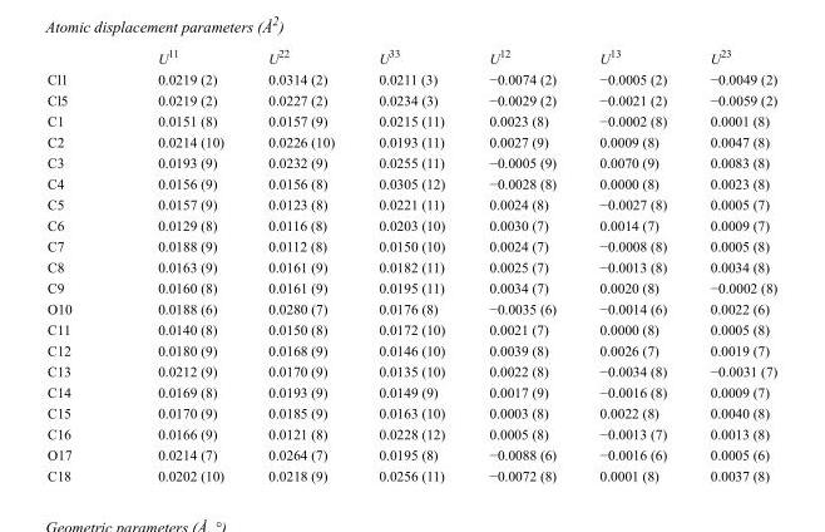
<table><thead><tr><td></td><td>U<sup>11</sup></td><td>U<sup>22</sup></td><td>U<sup>33</sup></td><td>U<sup>12</sup></td><td>U<sup>13</sup></td><td>U<sup>23</sup></td></tr></thead><tbody><tr><td>Cl1</td><td>0.0219 (2)</td><td>0.0314 (2)</td><td>0.0211 (3)</td><td>−0.0074 (2)</td><td>−0.0005 (2)</td><td>−0.0049 (2)</td></tr><tr><td>Cl5</td><td>0.0219 (2)</td><td>0.0227 (2)</td><td>0.0234 (3)</td><td>−0.0029 (2)</td><td>−0.0021 (2)</td><td>−0.0059 (2)</td></tr><tr><td>C1</td><td>0.0151 (8)</td><td>0.0157 (9)</td><td>0.0215 (11)</td><td>0.0023 (8)</td><td>−0.0002 (8)</td><td>0.0001 (8)</td></tr><tr><td>C2</td><td>0.0214 (10)</td><td>0.0226 (10)</td><td>0.0193 (11)</td><td>0.0027 (9)</td><td>0.0009 (8)</td><td>0.0047 (8)</td></tr><tr><td>C3</td><td>0.0193 (9)</td><td>0.0232 (9)</td><td>0.0255 (11)</td><td>−0.0005 (9)</td><td>0.0070 (9)</td><td>0.0083 (8)</td></tr><tr><td>C4</td><td>0.0156 (9)</td><td>0.0156 (8)</td><td>0.0305 (12)</td><td>−0.0028 (8)</td><td>0.0000 (8)</td><td>0.0023 (8)</td></tr><tr><td>C5</td><td>0.0157 (9)</td><td>0.0123 (8)</td><td>0.0221 (11)</td><td>0.0024 (8)</td><td>−0.0027 (8)</td><td>0.0005 (7)</td></tr><tr><td>C6</td><td>0.0129 (8)</td><td>0.0116 (8)</td><td>0.0203 (10)</td><td>0.0030 (7)</td><td>0.0014 (7)</td><td>0.0009 (7)</td></tr><tr><td>C7</td><td>0.0188 (9)</td><td>0.0112 (8)</td><td>0.0150 (10)</td><td>0.0024 (7)</td><td>−0.0008 (8)</td><td>0.0005 (8)</td></tr><tr><td>C8</td><td>0.0163 (9)</td><td>0.0161 (9)</td><td>0.0182 (11)</td><td>0.0025 (7)</td><td>−0.0013 (8)</td><td>0.0034 (8)</td></tr><tr><td>C9</td><td>0.0160 (8)</td><td>0.0161 (9)</td><td>0.0195 (11)</td><td>0.0034 (7)</td><td>0.0020 (8)</td><td>−0.0002 (8)</td></tr><tr><td>O10</td><td>0.0188 (6)</td><td>0.0280 (7)</td><td>0.0176 (8)</td><td>−0.0035 (6)</td><td>−0.0014 (6)</td><td>0.0022 (6)</td></tr><tr><td>C11</td><td>0.0140 (8)</td><td>0.0150 (8)</td><td>0.0172 (10)</td><td>0.0021 (7)</td><td>0.0000 (8)</td><td>0.0005 (8)</td></tr><tr><td>C12</td><td>0.0180 (9)</td><td>0.0168 (9)</td><td>0.0146 (10)</td><td>0.0039 (8)</td><td>0.0026 (7)</td><td>0.0019 (7)</td></tr><tr><td>C13</td><td>0.0212 (9)</td><td>0.0170 (9)</td><td>0.0135 (10)</td><td>0.0022 (8)</td><td>−0.0034 (8)</td><td>−0.0031 (7)</td></tr><tr><td>C14</td><td>0.0169 (8)</td><td>0.0193 (9)</td><td>0.0149 (9)</td><td>0.0017 (9)</td><td>−0.0016 (8)</td><td>0.0009 (7)</td></tr><tr><td>C15</td><td>0.0170 (9)</td><td>0.0185 (9)</td><td>0.0163 (10)</td><td>0.0003 (8)</td><td>0.0022 (8)</td><td>0.0040 (8)</td></tr><tr><td>C16</td><td>0.0166 (9)</td><td>0.0121 (8)</td><td>0.0228 (12)</td><td>0.0005 (8)</td><td>−0.0013 (7)</td><td>0.0013 (8)</td></tr><tr><td>O17</td><td>0.0214 (7)</td><td>0.0264 (7)</td><td>0.0195 (8)</td><td>−0.0088 (6)</td><td>−0.0016 (6)</td><td>0.0005 (6)</td></tr><tr><td>C18</td><td>0.0202 (10)</td><td>0.0218 (9)</td><td>0.0256 (11)</td><td>−0.0072 (8)</td><td>0.0001 (8)</td><td>0.0037 (8)</td></tr></tbody></table>